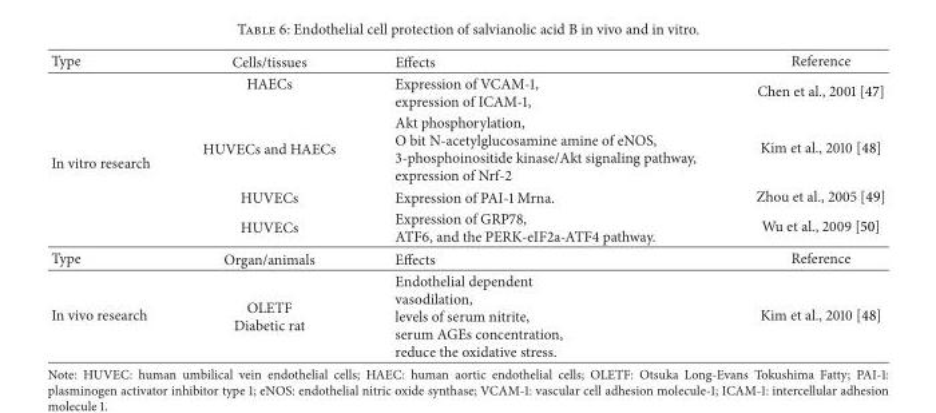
<table><thead><tr><td>Type</td><td>Cells/tissues</td><td>Effects</td><td>Reference</td></tr></thead><tbody><tr><td rowspan="4">In vitro research</td><td>HAECs</td><td>Expression of VCAM-1, expression of ICAM-1,</td><td>Chen et al., 2001 [47]</td></tr><tr><td>HUVECs and HAECs</td><td>Akt phosphorylation, O bit N-acetylglucosamine amine of eNOS, 3-phosphoinositide kinase/Akt signaling pathway, expression of Nrf-2</td><td>Kim et al., 2010 [48]</td></tr><tr><td>HUVECs</td><td>Expression of PAI-1 Mrna.</td><td>Zhou et al., 2005 [49]</td></tr><tr><td>HUVECs</td><td>Expression of GRP78, ATF6, and the PERK-eIF2a-ATF4 pathway.</td><td>Wu et al., 2009 [50]</td></tr><tr><td>Type</td><td>Organ/animals</td><td>Effects</td><td>Reference</td></tr><tr><td>In vivo research</td><td>OLETF Diabetic rat</td><td>Endothelial dependent vasodilation, levels of serum nitrite, serum AGEs concentration, reduce the oxidative stress.</td><td>Kim et al., 2010 [48]</td></tr></tbody></table>